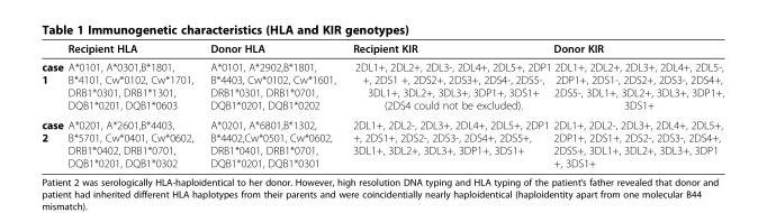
<table><thead><tr><td></td><td>Recipient HLA</td><td>Donor HLA</td><td>Recipient KIR</td><td>Donor KIR</td></tr></thead><tbody><tr><td>case 1</td><td>A*0101, A*0301,B*1801, B*4101, Cw*0102, Cw*1701, DRB1*0301, DRB1*1301, DQB1*0201, DQB1*0603</td><td>A*0101, A*2902,B*1801, B*4403, Cw*0102, Cw*1601, DRB1*0301, DRB1*0701, DQB1*0201, DQB1*0202</td><td>2DL1+, 2DL2+, 2DL3-, 2DL4+, 2DL5+, 2DP1 +, 2DS1 +, 2DS2+, 2DS3+, 2DS4-, 2DS5-, 3DL1+, 3DL2+, 3DL3+, 3DP1+, 3DS1+ (2DS4 could not be excluded).</td><td>2DL1+, 2DL2+, 2DL3+, 2DL4+, 2DL5-, 2DP1+, 2DS1-, 2DS2+, 2DS3-, 2DS4+, 2DS5-, 3DL1+, 3DL2+, 3DL3+, 3DP1+, 3DS1+</td></tr><tr><td>case 2</td><td>A*0201, A*2601,B*4403, B*5701, Cw*0401, Cw*0602, DRB1*0402, DRB1*0701, DQB1*0201, DQB1*0302</td><td>A*0201, A*6801,B*1302, B*4402,Cw*0501, Cw*0602, DRB1*0401, DRB1*0701, DQB1*0201, DQB1*0301</td><td>2DL1+, 2DL2-, 2DL3+, 2DL4+, 2DL5+, 2DP1 +, 2DS1+, 2DS2-, 2DS3-, 2DS4+, 2DS5+, 3DL1+, 3DL2+, 3DL3+, 3DP1+, 3DS1+</td><td>2DL1+, 2DL2-, 2DL3+, 2DL4+, 2DL5+, 2DP1+, 2DS1+, 2DS2-, 2DS3-, 2DS4+, 2DS5+, 3DL1+, 3DL2+, 3DL3+, 3DP1 +, 3DS1+</td></tr></tbody></table>